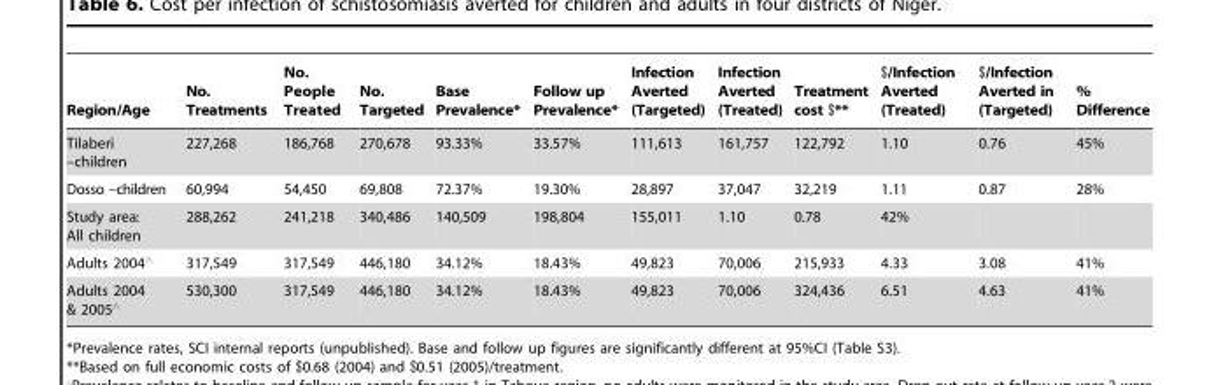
<table><thead><tr><td>Region/Age</td><td>No. Treatments</td><td>No. People Treated</td><td>No. Targeted</td><td>Base Prevalence*</td><td>Follow up Prevalence*</td><td>Infection Averted (Targeted)</td><td>Infection Averted (Treated)</td><td>Treatment cost $**</td><td>$/Infection Averted (Treated)</td><td>$/Infection Averted in (Targeted)</td><td>% Difference</td></tr></thead><tbody><tr><td>Tilaberi –children</td><td>227,268</td><td>186,768</td><td>270,678</td><td>93.33%</td><td>33.57%</td><td>111,613</td><td>161,757</td><td>122,792</td><td>1.10</td><td>0.76</td><td>45%</td></tr><tr><td>Dosso –children</td><td>60,994</td><td>54,450</td><td>69,808</td><td>72.37%</td><td>19.30%</td><td>28,897</td><td>37,047</td><td>32,219</td><td>1.11</td><td>0.87</td><td>28%</td></tr><tr><td>Study area: All children</td><td>288,262</td><td>241,218</td><td>340,486</td><td>140,509</td><td>198,804</td><td>155,011</td><td>1.10</td><td>0.78</td><td>42%</td><td></td><td></td></tr><tr><td>Adults 2004‘</td><td>317,549</td><td>317,549</td><td>446,180</td><td>34.12%</td><td>18.43%</td><td>49,823</td><td>70,006</td><td>215,933</td><td>4.33</td><td>3.08</td><td>41%</td></tr><tr><td>Adults 2004 &amp; 2005‘</td><td>530,300</td><td>317,549</td><td>446,180</td><td>34.12%</td><td>18.43%</td><td>49,823</td><td>70,006</td><td>324,436</td><td>6.51</td><td>4.63</td><td>41%</td></tr></tbody></table>